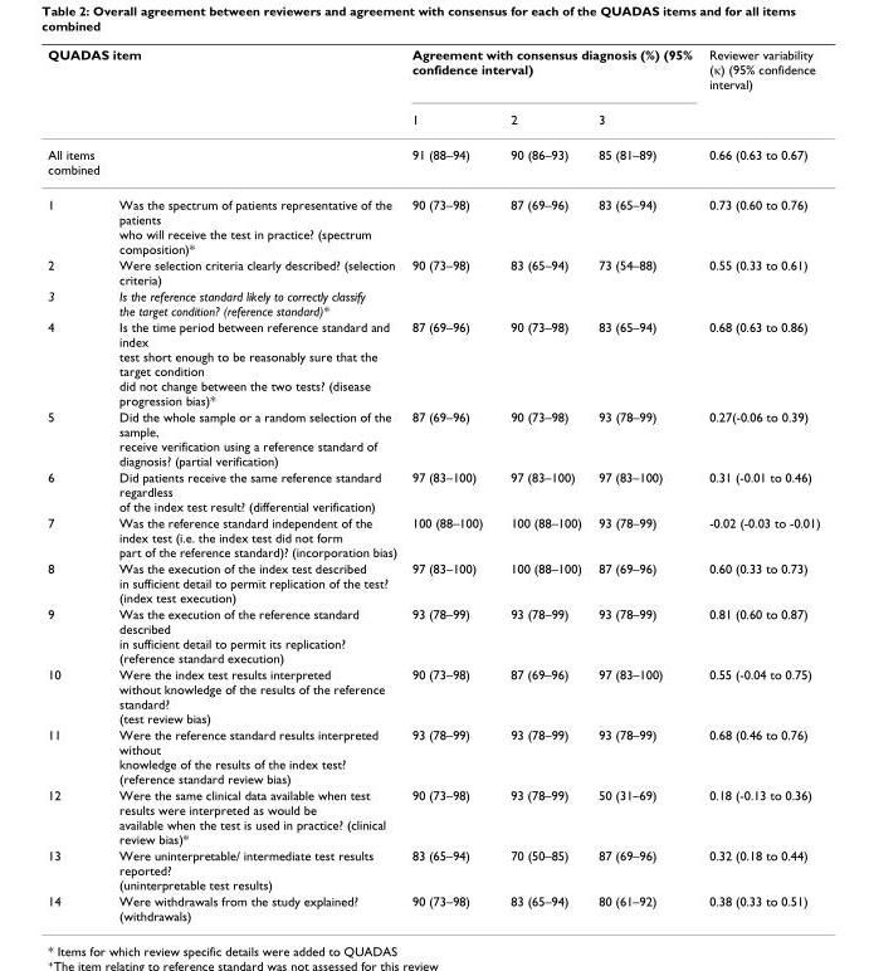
<table><thead><tr><td colspan="2">QUADAS item</td><td colspan="3">Agreement with consensus diagnosis (%) (95% confidence interval)</td><td rowspan="2">Reviewer variability (κ) (95% confidence interval)</td></tr><tr><td></td><td></td><td>1</td><td>2</td><td>3</td></tr></thead><tbody><tr><td>All items combined</td><td></td><td>91 (88–94)</td><td>90 (86–93)</td><td>85 (81–89)</td><td>0.66 (0.63 to 0.67)</td></tr><tr><td>1</td><td>Was the spectrum of patients representative of the patients who will receive the test in practice? (spectrum composition)*</td><td>90 (73–98)</td><td>87 (69–96)</td><td>83 (65–94)</td><td>0.73 (0.60 to 0.76)</td></tr><tr><td>2</td><td>Were selection criteria clearly described? (selection criteria)</td><td>90 (73–98)</td><td>83 (65–94)</td><td>73 (54–88)</td><td>0.55 (0.33 to 0.61)</td></tr><tr><td>3</td><td>Is the reference standard likely to correctly classify the target condition? (reference standard)*</td><td></td><td></td><td></td><td></td></tr><tr><td>4</td><td>Is the time period between reference standard and index test short enough to be reasonably sure that the target condition did not change between the two tests? (disease progression bias)*</td><td>87 (69–96)</td><td>90 (73–98)</td><td>83 (65–94)</td><td>0.68 (0.63 to 0.86)</td></tr><tr><td>5</td><td>Did the whole sample or a random selection of the sample, receive verification using a reference standard of diagnosis? (partial verification)</td><td>87 (69–96)</td><td>90 (73–98)</td><td>93 (78–99)</td><td>0.27(-0.06 to 0.39)</td></tr><tr><td>6</td><td>Did patients receive the same reference standard regardless of the index test result? (differential verification)</td><td>97 (83–100)</td><td>97 (83–100)</td><td>97 (83–100)</td><td>0.31 (-0.01 to 0.46)</td></tr><tr><td>7</td><td>Was the reference standard independent of the index test (i.e. the index test did not form part of the reference standard)? (incorporation bias)</td><td>100 (88–100)</td><td>100 (88–100)</td><td>93 (78–99)</td><td>-0.02 (-0.03 to -0.01)</td></tr><tr><td>8</td><td>Was the execution of the index test described in sufficient detail to permit replication of the test? (index test execution)</td><td>97 (83–100)</td><td>100 (88–100)</td><td>87 (69–96)</td><td>0.60 (0.33 to 0.73)</td></tr><tr><td>9</td><td>Was the execution of the reference standard described in sufficient detail to permit its replication? (reference standard execution)</td><td>93 (78–99)</td><td>93 (78–99)</td><td>93 (78–99)</td><td>0.81 (0.60 to 0.87)</td></tr><tr><td>10</td><td>Were the index test results interpreted without knowledge of the results of the reference standard? (test review bias)</td><td>90 (73–98)</td><td>87 (69–96)</td><td>97 (83–100)</td><td>0.55 (-0.04 to 0.75)</td></tr><tr><td>11</td><td>Were the reference standard results interpreted without knowledge of the results of the index test? (reference standard review bias)</td><td>93 (78–99)</td><td>93 (78–99)</td><td>93 (78–99)</td><td>0.68 (0.46 to 0.76)</td></tr><tr><td>12</td><td>Were the same clinical data available when test results were interpreted as would be available when the test is used in practice? (clinical review bias)*</td><td>90 (73–98)</td><td>93 (78–99)</td><td>50 (31–69)</td><td>0.18 (-0.13 to 0.36)</td></tr><tr><td>13</td><td>Were uninterpretable/ intermediate test results reported? (uninterpretable test results)</td><td>83 (65–94)</td><td>70 (50–85)</td><td>87 (69–96)</td><td>0.32 (0.18 to 0.44)</td></tr><tr><td>14</td><td>Were withdrawals from the study explained? (withdrawals)</td><td>90 (73–98)</td><td>83 (65–94)</td><td>80 (61–92)</td><td>0.38 (0.33 to 0.51)</td></tr></tbody></table>